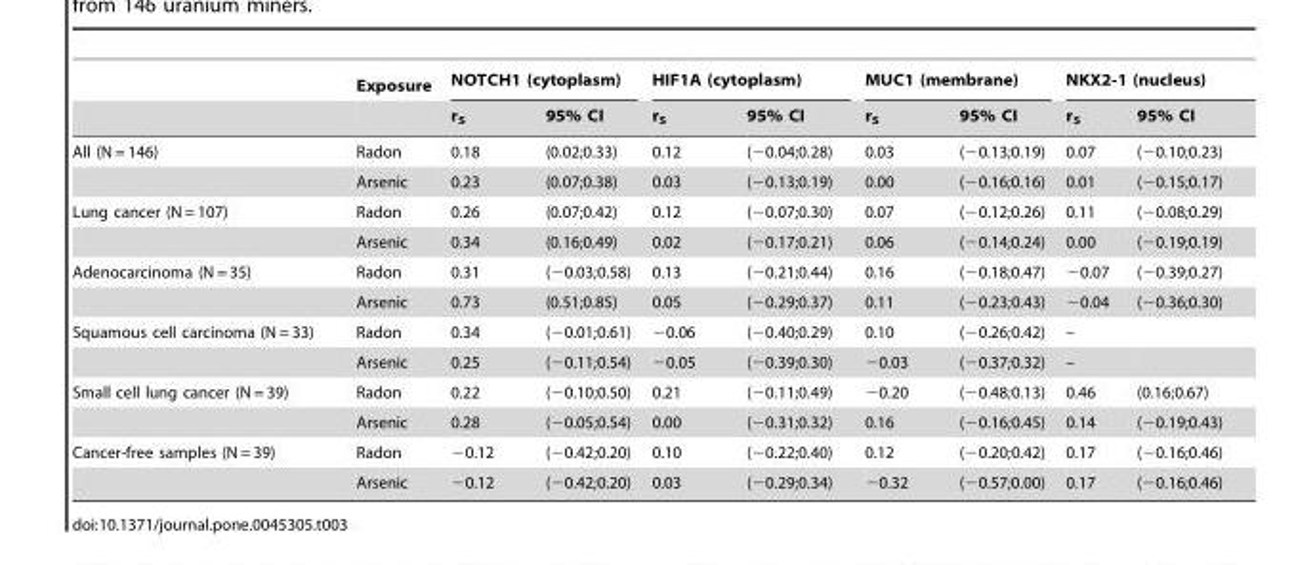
<table><thead><tr><td rowspan="2"></td><td rowspan="2">Exposure</td><td colspan="2">NOTCH1 (cytoplasm)</td><td colspan="2">HIF1A (cytoplasm)</td><td colspan="2">MUC1 (membrane)</td><td colspan="2">NKX2-1 (nucleus)</td></tr><tr><td>r<sub>S</sub></td><td>95% CI</td><td>r<sub>S</sub></td><td>95% CI</td><td>r<sub>S</sub></td><td>95% CI</td><td>r<sub>S</sub></td><td>95% CI</td></tr></thead><tbody><tr><td rowspan="2">All (N = 146)</td><td>Radon</td><td>0.18</td><td>(0.02;0.33)</td><td>0.12</td><td>(−0.04;0.28)</td><td>0.03</td><td>(−0.13;0.19)</td><td>0.07</td><td>(−0.10;0.23)</td></tr><tr><td>Arsenic</td><td>0.23</td><td>(0.07;0.38)</td><td>0.03</td><td>(−0.13;0.19)</td><td>0.00</td><td>(−0.16;0.16)</td><td>0.01</td><td>(−0.15;0.17)</td></tr><tr><td rowspan="2">Lung cancer (N = 107)</td><td>Radon</td><td>0.26</td><td>(0.07;0.42)</td><td>0.12</td><td>(−0.07;0.30)</td><td>0.07</td><td>(−0.12;0.26)</td><td>0.11</td><td>(−0.08;0.29)</td></tr><tr><td>Arsenic</td><td>0.34</td><td>(0.16;0.49)</td><td>0.02</td><td>(−0.17;0.21)</td><td>0.06</td><td>(−0.14;0.24)</td><td>0.00</td><td>(−0.19;0.19)</td></tr><tr><td rowspan="2">Adenocarcinoma (N = 35)</td><td>Radon</td><td>0.31</td><td>(−0.03;0.58)</td><td>0.13</td><td>(−0.21;0.44)</td><td>0.16</td><td>(−0.18;0.47)</td><td>−0.07</td><td>(−0.39;0.27)</td></tr><tr><td>Arsenic</td><td>0.73</td><td>(0.51;0.85)</td><td>0.05</td><td>(−0.29;0.37)</td><td>0.11</td><td>(−0.23;0.43)</td><td>−0.04</td><td>(−0.36;0.30)</td></tr><tr><td rowspan="2">Squamous cell carcinoma (N = 33)</td><td>Radon</td><td>0.34</td><td>(−0.01;0.61)</td><td>−0.06</td><td>(−0.40;0.29)</td><td>0.10</td><td>(−0.26;0.42)</td><td>–</td><td></td></tr><tr><td>Arsenic</td><td>0.25</td><td>(−0.11;0.54)</td><td>−0.05</td><td>(−0.39;0.30)</td><td>−0.03</td><td>(−0.37;0.32)</td><td>–</td><td></td></tr><tr><td rowspan="2">Small cell lung cancer (N = 39)</td><td>Radon</td><td>0.22</td><td>(−0.10;0.50)</td><td>0.21</td><td>(−0.11;0.49)</td><td>−0.20</td><td>(−0.48;0.13)</td><td>0.46</td><td>(0.16;0.67)</td></tr><tr><td>Arsenic</td><td>0.28</td><td>(−0.05;0.54)</td><td>0.00</td><td>(−0.31;0.32)</td><td>0.16</td><td>(−0.16;0.45)</td><td>0.14</td><td>(−0.19;0.43)</td></tr><tr><td rowspan="2">Cancer-free samples (N = 39)</td><td>Radon</td><td>−0.12</td><td>(−0.42;0.20)</td><td>0.10</td><td>(−0.22;0.40)</td><td>0.12</td><td>(−0.20;0.42)</td><td>0.17</td><td>(−0.16;0.46)</td></tr><tr><td>Arsenic</td><td>−0.12</td><td>(−0.42;0.20)</td><td>0.03</td><td>(−0.29;0.34)</td><td>−0.32</td><td>(−0.57;0.00)</td><td>0.17</td><td>(−0.16;0.46)</td></tr></tbody></table>